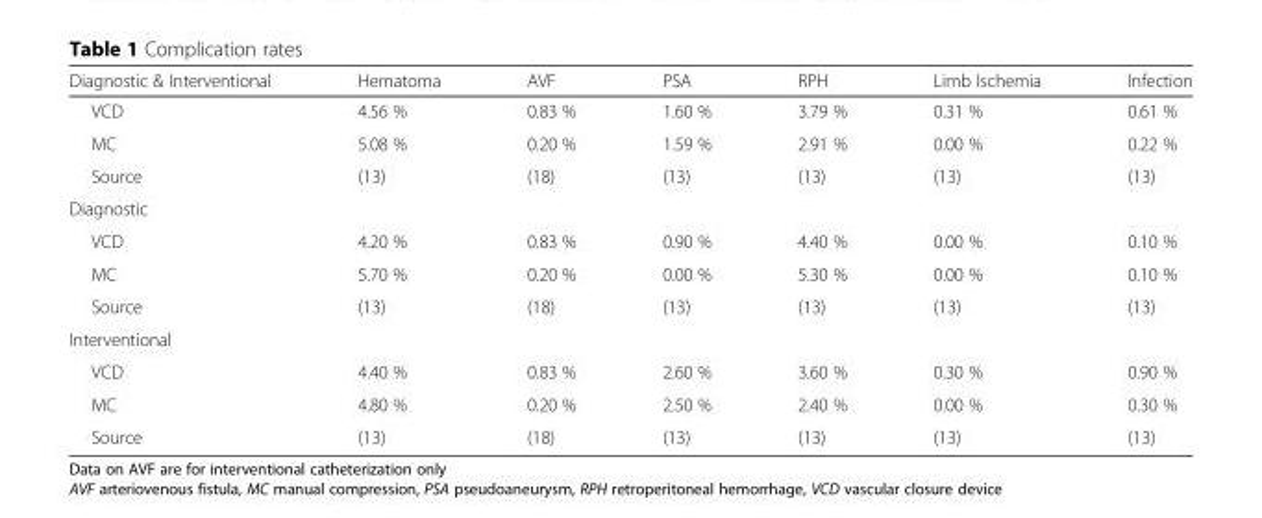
<table><thead><tr><td>Diagnostic &amp; Interventional</td><td>Hematoma</td><td>AVF</td><td>PSA</td><td>RPH</td><td>Limb Ischemia</td><td>Infection</td></tr></thead><tbody><tr><td>VCD</td><td>4.56 %</td><td>0.83 %</td><td>1.60 %</td><td>3.79 %</td><td>0.31 %</td><td>0.61 %</td></tr><tr><td>MC</td><td>5.08 %</td><td>0.20 %</td><td>1.59 %</td><td>2.91 %</td><td>0.00 %</td><td>0.22 %</td></tr><tr><td>Source</td><td>(13)</td><td>(18)</td><td>(13)</td><td>(13)</td><td>(13)</td><td>(13)</td></tr><tr><td>Diagnostic</td><td></td><td></td><td></td><td></td><td></td><td></td></tr><tr><td>VCD</td><td>4.20 %</td><td>0.83 %</td><td>0.90 %</td><td>4.40 %</td><td>0.00 %</td><td>0.10 %</td></tr><tr><td>MC</td><td>5.70 %</td><td>0.20 %</td><td>0.00 %</td><td>5.30 %</td><td>0.00 %</td><td>0.10 %</td></tr><tr><td>Source</td><td>(13)</td><td>(18)</td><td>(13)</td><td>(13)</td><td>(13)</td><td>(13)</td></tr><tr><td>Interventional</td><td></td><td></td><td></td><td></td><td></td><td></td></tr><tr><td>VCD</td><td>4.40 %</td><td>0.83 %</td><td>2.60 %</td><td>3.60 %</td><td>0.30 %</td><td>0.90 %</td></tr><tr><td>MC</td><td>4.80 %</td><td>0.20 %</td><td>2.50 %</td><td>2.40 %</td><td>0.00 %</td><td>0.30 %</td></tr><tr><td>Source</td><td>(13)</td><td>(18)</td><td>(13)</td><td>(13)</td><td>(13)</td><td>(13)</td></tr></tbody></table>